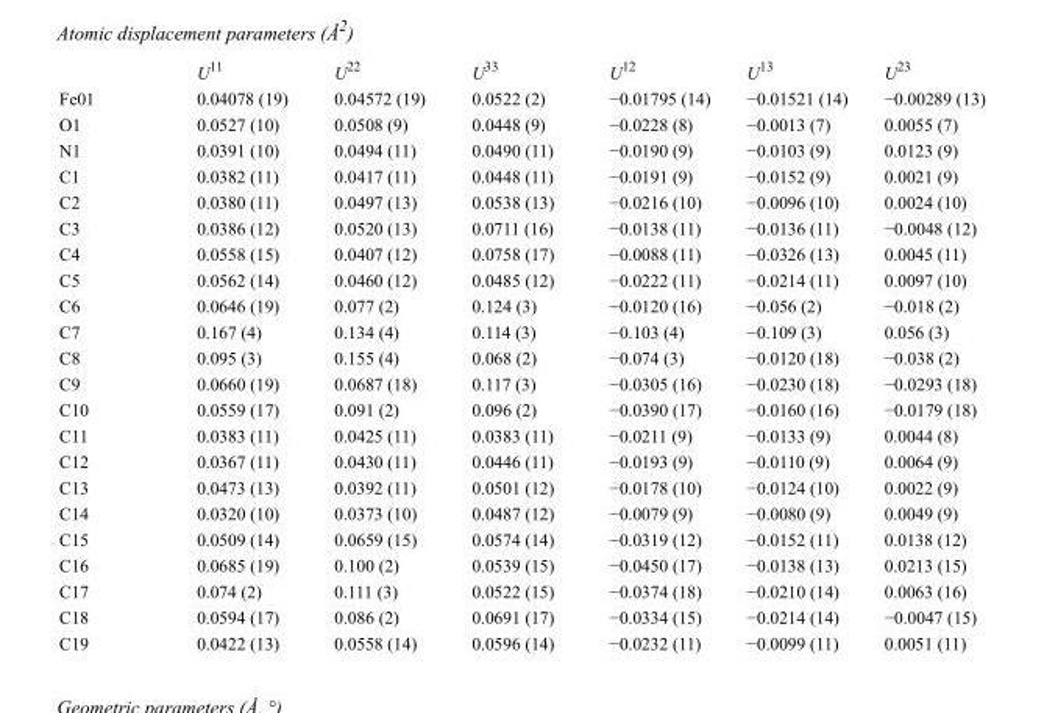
<table><thead><tr><td></td><td>U<sup>11</sup></td><td>U<sup>22</sup></td><td>U<sup>33</sup></td><td>U<sup>12</sup></td><td>U<sup>13</sup></td><td>U<sup>23</sup></td></tr></thead><tbody><tr><td>Fe01</td><td>0.04078 (19)</td><td>0.04572 (19)</td><td>0.0522 (2)</td><td>−0.01795 (14)</td><td>−0.01521 (14)</td><td>−0.00289 (13)</td></tr><tr><td>O1</td><td>0.0527 (10)</td><td>0.0508 (9)</td><td>0.0448 (9)</td><td>−0.0228 (8)</td><td>−0.0013 (7)</td><td>0.0055 (7)</td></tr><tr><td>N1</td><td>0.0391 (10)</td><td>0.0494 (11)</td><td>0.0490 (11)</td><td>−0.0190 (9)</td><td>−0.0103 (9)</td><td>0.0123 (9)</td></tr><tr><td>C1</td><td>0.0382 (11)</td><td>0.0417 (11)</td><td>0.0448 (11)</td><td>−0.0191 (9)</td><td>−0.0152 (9)</td><td>0.0021 (9)</td></tr><tr><td>C2</td><td>0.0380 (11)</td><td>0.0497 (13)</td><td>0.0538 (13)</td><td>−0.0216 (10)</td><td>−0.0096 (10)</td><td>0.0024 (10)</td></tr><tr><td>C3</td><td>0.0386 (12)</td><td>0.0520 (13)</td><td>0.0711 (16)</td><td>−0.0138 (11)</td><td>−0.0136 (11)</td><td>−0.0048 (12)</td></tr><tr><td>C4</td><td>0.0558 (15)</td><td>0.0407 (12)</td><td>0.0758 (17)</td><td>−0.0088 (11)</td><td>−0.0326 (13)</td><td>0.0045 (11)</td></tr><tr><td>C5</td><td>0.0562 (14)</td><td>0.0460 (12)</td><td>0.0485 (12)</td><td>−0.0222 (11)</td><td>−0.0214 (11)</td><td>0.0097 (10)</td></tr><tr><td>C6</td><td>0.0646 (19)</td><td>0.077 (2)</td><td>0.124 (3)</td><td>−0.0120 (16)</td><td>−0.056 (2)</td><td>−0.018 (2)</td></tr><tr><td>C7</td><td>0.167 (4)</td><td>0.134 (4)</td><td>0.114 (3)</td><td>−0.103 (4)</td><td>−0.109 (3)</td><td>0.056 (3)</td></tr><tr><td>C8</td><td>0.095 (3)</td><td>0.155 (4)</td><td>0.068 (2)</td><td>−0.074 (3)</td><td>−0.0120 (18)</td><td>−0.038 (2)</td></tr><tr><td>C9</td><td>0.0660 (19)</td><td>0.0687 (18)</td><td>0.117 (3)</td><td>−0.0305 (16)</td><td>−0.0230 (18)</td><td>−0.0293 (18)</td></tr><tr><td>C10</td><td>0.0559 (17)</td><td>0.091 (2)</td><td>0.096 (2)</td><td>−0.0390 (17)</td><td>−0.0160 (16)</td><td>−0.0179 (18)</td></tr><tr><td>C11</td><td>0.0383 (11)</td><td>0.0425 (11)</td><td>0.0383 (11)</td><td>−0.0211 (9)</td><td>−0.0133 (9)</td><td>0.0044 (8)</td></tr><tr><td>C12</td><td>0.0367 (11)</td><td>0.0430 (11)</td><td>0.0446 (11)</td><td>−0.0193 (9)</td><td>−0.0110 (9)</td><td>0.0064 (9)</td></tr><tr><td>C13</td><td>0.0473 (13)</td><td>0.0392 (11)</td><td>0.0501 (12)</td><td>−0.0178 (10)</td><td>−0.0124 (10)</td><td>0.0022 (9)</td></tr><tr><td>C14</td><td>0.0320 (10)</td><td>0.0373 (10)</td><td>0.0487 (12)</td><td>−0.0079 (9)</td><td>−0.0080 (9)</td><td>0.0049 (9)</td></tr><tr><td>C15</td><td>0.0509 (14)</td><td>0.0659 (15)</td><td>0.0574 (14)</td><td>−0.0319 (12)</td><td>−0.0152 (11)</td><td>0.0138 (12)</td></tr><tr><td>C16</td><td>0.0685 (19)</td><td>0.100 (2)</td><td>0.0539 (15)</td><td>−0.0450 (17)</td><td>−0.0138 (13)</td><td>0.0213 (15)</td></tr><tr><td>C17</td><td>0.074 (2)</td><td>0.111 (3)</td><td>0.0522 (15)</td><td>−0.0374 (18)</td><td>−0.0210 (14)</td><td>0.0063 (16)</td></tr><tr><td>C18</td><td>0.0594 (17)</td><td>0.086 (2)</td><td>0.0691 (17)</td><td>−0.0334 (15)</td><td>−0.0214 (14)</td><td>−0.0047 (15)</td></tr><tr><td>C19</td><td>0.0422 (13)</td><td>0.0558 (14)</td><td>0.0596 (14)</td><td>−0.0232 (11)</td><td>−0.0099 (11)</td><td>0.0051 (11)</td></tr></tbody></table>